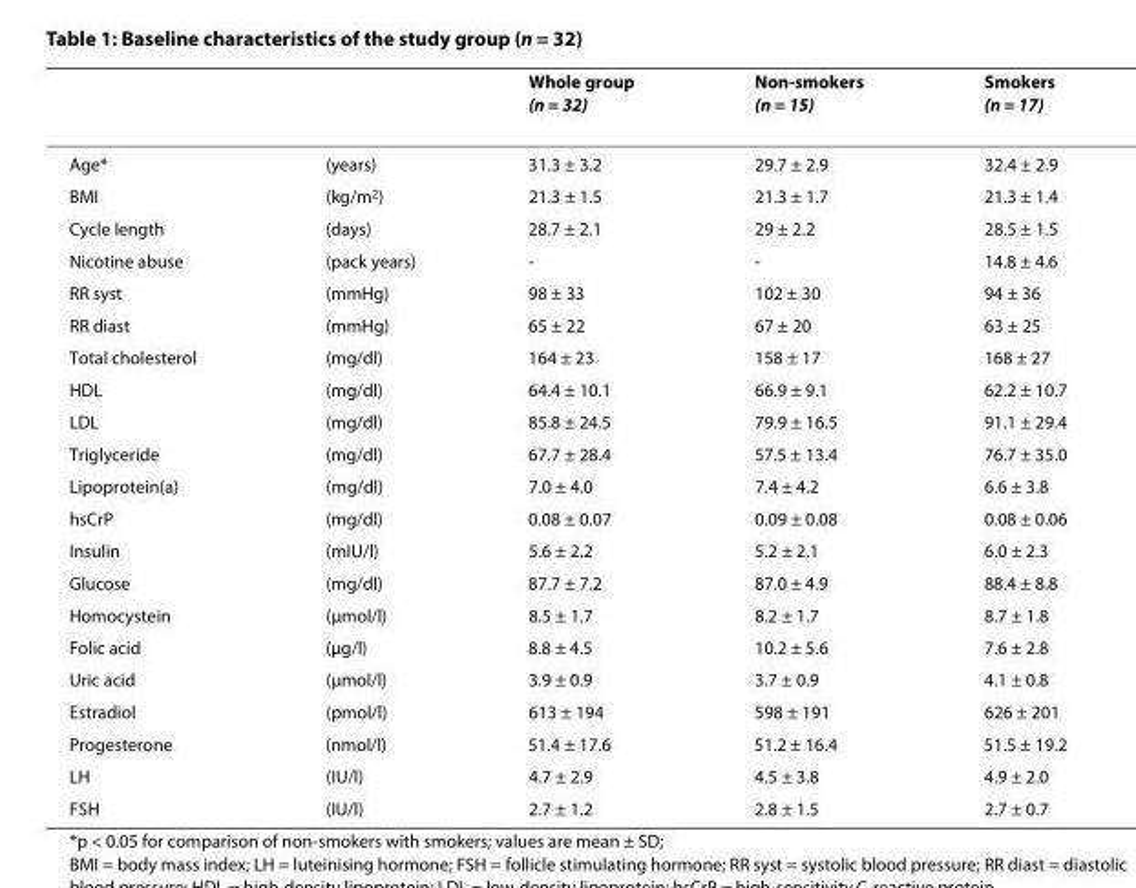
<table><thead><tr><td></td><td></td><td>Whole group (n = 32)</td><td>Non-smokers (n = 15)</td><td>Smokers (n = 17)</td></tr></thead><tbody><tr><td>Age*</td><td>(years)</td><td>31.3 ± 3.2</td><td>29.7 ± 2.9</td><td>32.4 ± 2.9</td></tr><tr><td>BMI</td><td>(kg/m<sup>2</sup>)</td><td>21.3 ± 1.5</td><td>21.3 ± 1.7</td><td>21.3 ± 1.4</td></tr><tr><td>Cycle length</td><td>(days)</td><td>28.7 ± 2.1</td><td>29 ± 2.2</td><td>28.5 ± 1.5</td></tr><tr><td>Nicotine abuse</td><td>(pack years)</td><td>-</td><td>-</td><td>14.8 ± 4.6</td></tr><tr><td>RR syst</td><td>(mmHg)</td><td>98 ± 33</td><td>102 ± 30</td><td>94 ± 36</td></tr><tr><td>RR diast</td><td>(mmHg)</td><td>65 ± 22</td><td>67 ± 20</td><td>63 ± 25</td></tr><tr><td>Total cholesterol</td><td>(mg/dl)</td><td>164 ± 23</td><td>158 ± 17</td><td>168 ± 27</td></tr><tr><td>HDL</td><td>(mg/dl)</td><td>64.4 ± 10.1</td><td>66.9 ± 9.1</td><td>62.2 ± 10.7</td></tr><tr><td>LDL</td><td>(mg/dl)</td><td>85.8 ± 24.5</td><td>79.9 ± 16.5</td><td>91.1 ± 29.4</td></tr><tr><td>Triglyceride</td><td>(mg/dl)</td><td>67.7 ± 28.4</td><td>57.5 ± 13.4</td><td>76.7 ± 35.0</td></tr><tr><td>Lipoprotein(a)</td><td>(mg/dl)</td><td>7.0 ± 4.0</td><td>7.4 ± 4.2</td><td>6.6 ± 3.8</td></tr><tr><td>hsCrP</td><td>(mg/dl)</td><td>0.08 ± 0.07</td><td>0.09 ± 0.08</td><td>0.08 ± 0.06</td></tr><tr><td>Insulin</td><td>(mIU/l)</td><td>5.6 ± 2.2</td><td>5.2 ± 2.1</td><td>6.0 ± 2.3</td></tr><tr><td>Glucose</td><td>(mg/dl)</td><td>87.7 ± 7.2</td><td>87.0 ± 4.9</td><td>88.4 ± 8.8</td></tr><tr><td>Homocystein</td><td>(μmol/l)</td><td>8.5 ± 1.7</td><td>8.2 ± 1.7</td><td>8.7 ± 1.8</td></tr><tr><td>Folic acid</td><td>(μg/l)</td><td>8.8 ± 4.5</td><td>10.2 ± 5.6</td><td>7.6 ± 2.8</td></tr><tr><td>Uric acid</td><td>(μmol/l)</td><td>3.9 ± 0.9</td><td>3.7 ± 0.9</td><td>4.1 ± 0.8</td></tr><tr><td>Estradiol</td><td>(pmol/l)</td><td>613 ± 194</td><td>598 ± 191</td><td>626 ± 201</td></tr><tr><td>Progesterone</td><td>(nmol/l)</td><td>51.4 ± 17.6</td><td>51.2 ± 16.4</td><td>51.5 ± 19.2</td></tr><tr><td>LH</td><td>(IU/l)</td><td>4.7 ± 2.9</td><td>4.5 ± 3.8</td><td>4.9 ± 2.0</td></tr><tr><td>FSH</td><td>(IU/l)</td><td>2.7 ± 1.2</td><td>2.8 ± 1.5</td><td>2.7 ± 0.7</td></tr></tbody></table>